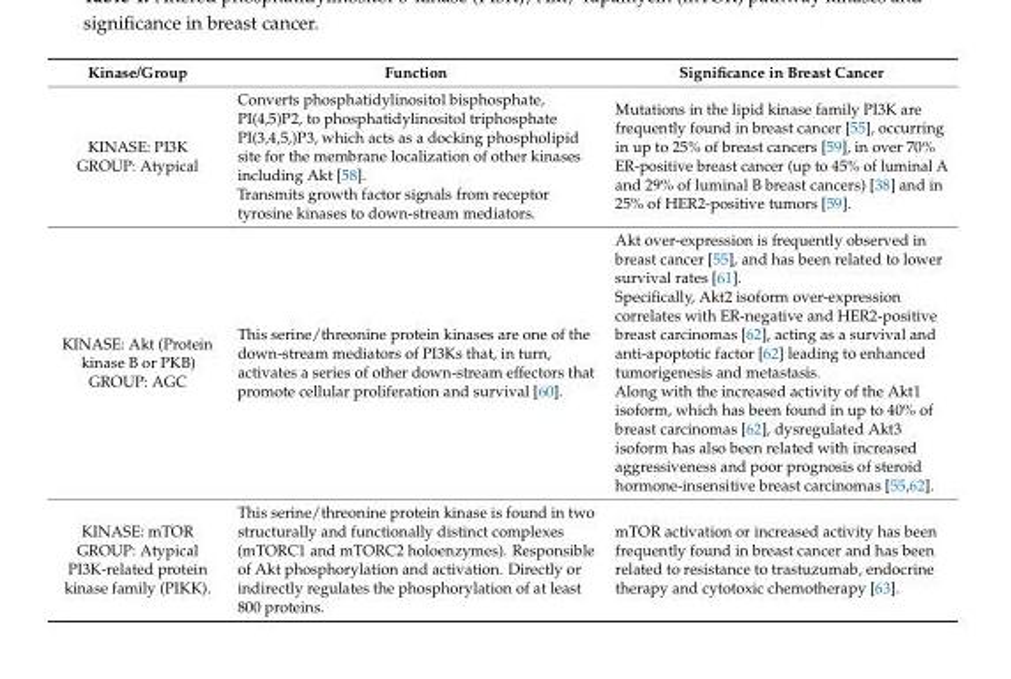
<table><thead><tr><td>Kinase/Group</td><td>Function</td><td>Significance in Breast Cancer</td></tr></thead><tbody><tr><td>KINASE: PI3K GROUP: Atypical</td><td>Converts phosphatidylinositol bisphosphate, PI(4,5)P2, to phosphatidylinositol triphosphate PI(3,4,5,)P3, which acts as a docking phospholipid site for the membrane localization of other kinases including Akt [58]. Transmits growth factor signals from receptor tyrosine kinases to down-stream mediators.</td><td>Mutations in the lipid kinase family PI3K are frequently found in breast cancer [55], occurring in up to 25% of breast cancers [59], in over 70% ER-positive breast cancer (up to 45% of luminal A and 29% of luminal B breast cancers) [38] and in 25% of HER2-positive tumors [59].</td></tr><tr><td>KINASE: Akt (Protein kinase B or PKB) GROUP: AGC</td><td>This serine/threonine protein kinases are one of the down-stream mediators of PI3Ks that, in turn, activates a series of other down-stream effectors that promote cellular proliferation and survival [60].</td><td>Akt over-expression is frequently observed in breast cancer [55], and has been related to lower survival rates [61]. Specifically, Akt2 isoform over-expression correlates with ER-negative and HER2-positive breast carcinomas [62], acting as a survival and anti-apoptotic factor [62] leading to enhanced tumorigenesis and metastasis. Along with the increased activity of the Akt1 isoform, which has been found in up to 40% of breast carcinomas [62], dysregulated Akt3 isoform has also been related with increased aggressiveness and poor prognosis of steroid hormone-insensitive breast carcinomas [55,62].</td></tr><tr><td>KINASE: mTOR GROUP: Atypical PI3K-related protein kinase family (PIKK).</td><td>This serine/threonine protein kinase is found in two structurally and functionally distinct complexes (mTORC1 and mTORC2 holoenzymes). Responsible of Akt phosphorylation and activation. Directly or indirectly regulates the phosphorylation of at least 800 proteins.</td><td>mTOR activation or increased activity has been frequently found in breast cancer and has been related to resistance to trastuzumab, endocrine therapy and cytotoxic chemotherapy [63].</td></tr></tbody></table>